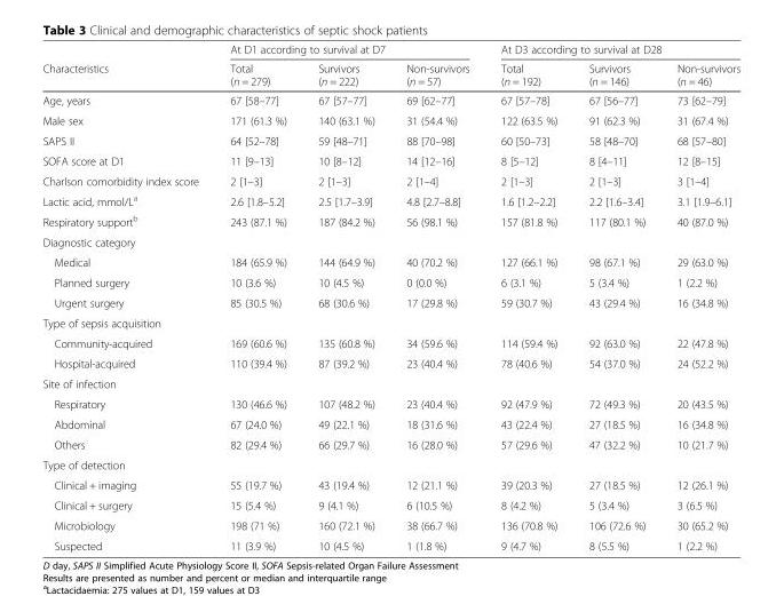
<table><thead><tr><td rowspan="2">Characteristics</td><td colspan="3">At D1 according to survival at D7</td><td colspan="3">At D3 according to survival at D28</td></tr><tr><td>Total (n = 279)</td><td>Survivors (n = 222)</td><td>Non-survivors (n = 57)</td><td>Total (n = 192)</td><td>Survivors (n = 146)</td><td>Non-survivors (n = 46)</td></tr></thead><tbody><tr><td>Age, years</td><td>67 [58–77]</td><td>67 [57–77]</td><td>69 [62–77]</td><td>67 [57–78]</td><td>67 [56–77]</td><td>73 [62–79]</td></tr><tr><td>Male sex</td><td>171 (61.3 %)</td><td>140 (63.1 %)</td><td>31 (54.4 %)</td><td>122 (63.5 %)</td><td>91 (62.3 %)</td><td>31 (67.4 %)</td></tr><tr><td>SAPS II</td><td>64 [52–78]</td><td>59 [48–71]</td><td>88 [70–98]</td><td>60 [50–73]</td><td>58 [48–70]</td><td>68 [57–80]</td></tr><tr><td>SOFA score at D1</td><td>11 [9–13]</td><td>10 [8–12]</td><td>14 [12–16]</td><td>8 [5–12]</td><td>8 [4–11]</td><td>12 [8–15]</td></tr><tr><td>Charlson comorbidity index score</td><td>2 [1–3]</td><td>2 [1–3]</td><td>2 [1–4]</td><td>2 [1–3]</td><td>2 [1–3]</td><td>3 [1–4]</td></tr><tr><td>Lactic acid, mmol/L<sup>a</sup></td><td>2.6 [1.8–5.2]</td><td>2.5 [1.7–3.9]</td><td>4.8 [2.7–8.8]</td><td>1.6 [1.2–2.2]</td><td>2.2 [1.6–3.4]</td><td>3.1 [1.9–6.1]</td></tr><tr><td>Respiratory support<sup>b</sup></td><td>243 (87.1 %)</td><td>187 (84.2 %)</td><td>56 (98.1 %)</td><td>157 (81.8 %)</td><td>117 (80.1 %)</td><td>40 (87.0 %)</td></tr><tr><td colspan="7">Diagnostic category</td></tr><tr><td>Medical</td><td>184 (65.9 %)</td><td>144 (64.9 %)</td><td>40 (70.2 %)</td><td>127 (66.1 %)</td><td>98 (67.1 %)</td><td>29 (63.0 %)</td></tr><tr><td>Planned surgery</td><td>10 (3.6 %)</td><td>10 (4.5 %)</td><td>0 (0.0 %)</td><td>6 (3.1 %)</td><td>5 (3.4 %)</td><td>1 (2.2 %)</td></tr><tr><td>Urgent surgery</td><td>85 (30.5 %)</td><td>68 (30.6 %)</td><td>17 (29.8 %)</td><td>59 (30.7 %)</td><td>43 (29.4 %)</td><td>16 (34.8 %)</td></tr><tr><td colspan="7">Type of sepsis acquisition</td></tr><tr><td>Community-acquired</td><td>169 (60.6 %)</td><td>135 (60.8 %)</td><td>34 (59.6 %)</td><td>114 (59.4 %)</td><td>92 (63.0 %)</td><td>22 (47.8 %)</td></tr><tr><td>Hospital-acquired</td><td>110 (39.4 %)</td><td>87 (39.2 %)</td><td>23 (40.4 %)</td><td>78 (40.6 %)</td><td>54 (37.0 %)</td><td>24 (52.2 %)</td></tr><tr><td colspan="7">Site of infection</td></tr><tr><td>Respiratory</td><td>130 (46.6 %)</td><td>107 (48.2 %)</td><td>23 (40.4 %)</td><td>92 (47.9 %)</td><td>72 (49.3 %)</td><td>20 (43.5 %)</td></tr><tr><td>Abdominal</td><td>67 (24.0 %)</td><td>49 (22.1 %)</td><td>18 (31.6 %)</td><td>43 (22.4 %)</td><td>27 (18.5 %)</td><td>16 (34.8 %)</td></tr><tr><td>Others</td><td>82 (29.4 %)</td><td>66 (29.7 %)</td><td>16 (28.0 %)</td><td>57 (29.6 %)</td><td>47 (32.2 %)</td><td>10 (21.7 %)</td></tr><tr><td colspan="7">Type of detection</td></tr><tr><td>Clinical + imaging</td><td>55 (19.7 %)</td><td>43 (19.4 %)</td><td>12 (21.1 %)</td><td>39 (20.3 %)</td><td>27 (18.5 %)</td><td>12 (26.1 %)</td></tr><tr><td>Clinical + surgery</td><td>15 (5.4 %)</td><td>9 (4.1 %)</td><td>6 (10.5 %)</td><td>8 (4.2 %)</td><td>5 (3.4 %)</td><td>3 (6.5 %)</td></tr><tr><td>Microbiology</td><td>198 (71 %)</td><td>160 (72.1 %)</td><td>38 (66.7 %)</td><td>136 (70.8 %)</td><td>106 (72.6 %)</td><td>30 (65.2 %)</td></tr><tr><td>Suspected</td><td>11 (3.9 %)</td><td>10 (4.5 %)</td><td>1 (1.8 %)</td><td>9 (4.7 %)</td><td>8 (5.5 %)</td><td>1 (2.2 %)</td></tr></tbody></table>